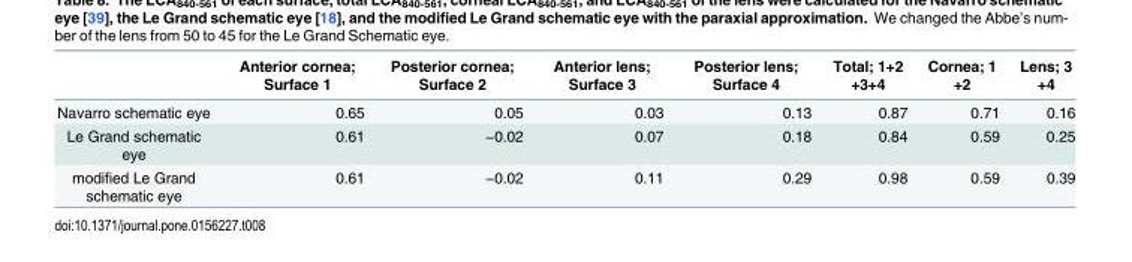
<table><thead><tr><td></td><td>Anterior cornea; Surface 1</td><td>Posterior cornea; Surface 2</td><td>Anterior lens; Surface 3</td><td>Posterior lens; Surface 4</td><td>Total; 1+2 +3+4</td><td>Cornea; 1 +2</td><td>Lens; 3 +4</td></tr></thead><tbody><tr><td>Navarro schematic eye</td><td>0.65</td><td>0.05</td><td>0.03</td><td>0.13</td><td>0.87</td><td>0.71</td><td>0.16</td></tr><tr><td>Le Grand schematic eye</td><td>0.61</td><td>−0.02</td><td>0.07</td><td>0.18</td><td>0.84</td><td>0.59</td><td>0.25</td></tr><tr><td>modified Le Grand schematic eye</td><td>0.61</td><td>−0.02</td><td>0.11</td><td>0.29</td><td>0.98</td><td>0.59</td><td>0.39</td></tr></tbody></table>